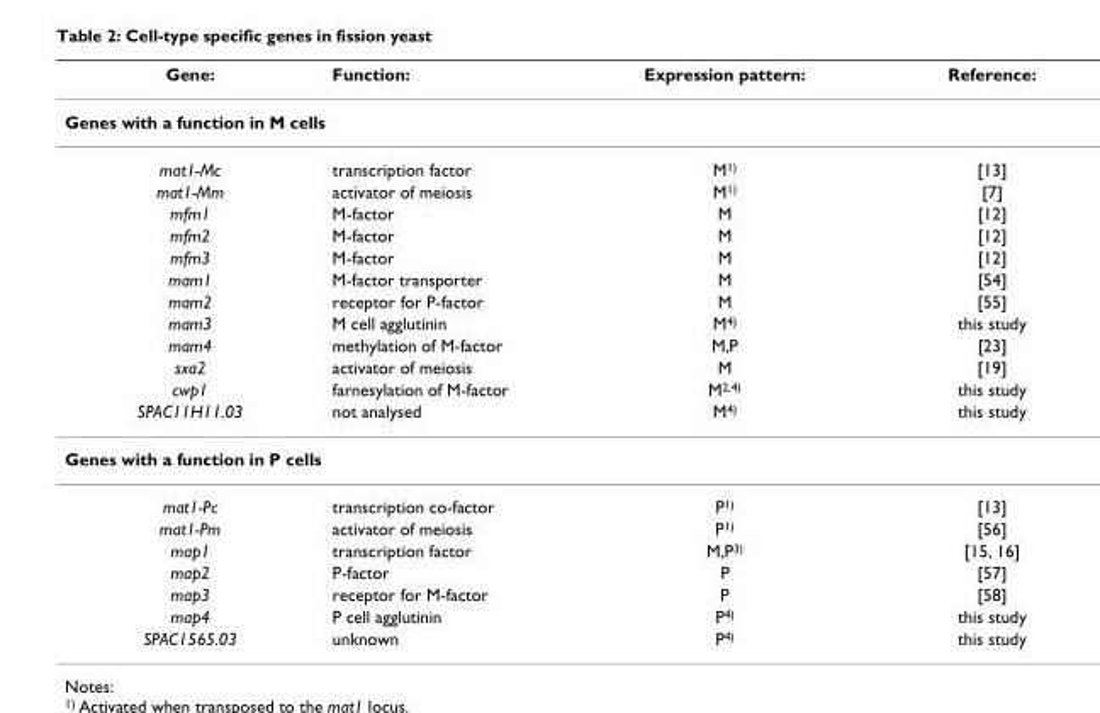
<table><thead><tr><td>Gene:</td><td>Function:</td><td>Expression pattern:</td><td>Reference:</td></tr></thead><tbody><tr><td colspan="4">Genes with a function in M cells</td></tr><tr><td>mat1-Mc</td><td>transcription factor</td><td>M1)</td><td>[13]</td></tr><tr><td>mat1-Mm</td><td>activator of meiosis</td><td>M1)</td><td>[7]</td></tr><tr><td>mfm1</td><td>M-factor</td><td>M</td><td>[12]</td></tr><tr><td>mfm2</td><td>M-factor</td><td>M</td><td>[12]</td></tr><tr><td>mfm3</td><td>M-factor</td><td>M</td><td>[12]</td></tr><tr><td>mam1</td><td>M-factor transporter</td><td>M</td><td>[54]</td></tr><tr><td>mam2</td><td>receptor for P-factor</td><td>M</td><td>[55]</td></tr><tr><td>mam3</td><td>M cell agglutinin</td><td>M4)</td><td>this study</td></tr><tr><td>mam4</td><td>methylation of M-factor</td><td>M,P</td><td>[23]</td></tr><tr><td>sxa2</td><td>activator of meiosis</td><td>M</td><td>[19]</td></tr><tr><td>cwp1</td><td>farnesylation of M-factor</td><td>M2,4)</td><td>this study</td></tr><tr><td>SPAC11H11.03</td><td>not analysed</td><td>M4)</td><td>this study</td></tr><tr><td colspan="4">Genes with a function in P cells</td></tr><tr><td>mat1-Pc</td><td>transcription co-factor</td><td>P1)</td><td>[13]</td></tr><tr><td>mat1-Pm</td><td>activator of meiosis</td><td>P1)</td><td>[56]</td></tr><tr><td>map1</td><td>transcription factor</td><td>M,P3)</td><td>[15, 16]</td></tr><tr><td>map2</td><td>P-factor</td><td>P</td><td>[57]</td></tr><tr><td>map3</td><td>receptor for M-factor</td><td>P</td><td>[58]</td></tr><tr><td>map4</td><td>P cell agglutinin</td><td>P4)</td><td>this study</td></tr><tr><td>SPAC1565.03</td><td>unknown</td><td>P4)</td><td>this study</td></tr></tbody></table>